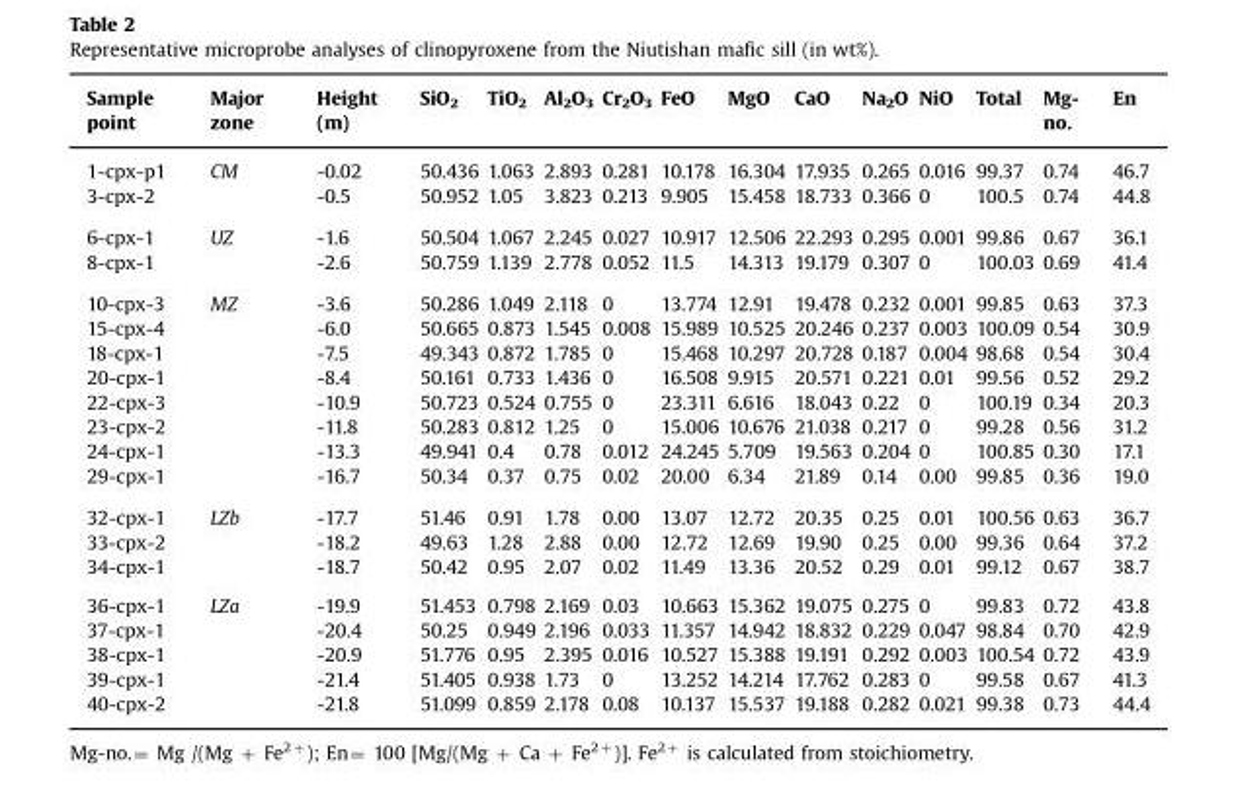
<table><thead><tr><td>Sample point</td><td>Major zone</td><td>Height (m)</td><td>SiO<sub>2</sub></td><td>TiO<sub>2</sub></td><td>Al<sub>2</sub>O<sub>3</sub></td><td>Cr<sub>2</sub>O<sub>3</sub></td><td>FeO</td><td>MgO</td><td>CaO</td><td>Na<sub>2</sub>O</td><td>NiO</td><td>Total</td><td>Mg- no.</td><td>En</td></tr></thead><tbody><tr><td>1-cpx-p1</td><td rowspan="2">CM</td><td>-0.02</td><td>50.436</td><td>1.063</td><td>2.893</td><td>0.281</td><td>10.178</td><td>16.304</td><td>17.935</td><td>0.265</td><td>0.016</td><td>99.37</td><td>0.74</td><td>46.7</td></tr><tr><td>3-cpx-2</td><td>-0.5</td><td>50.952</td><td>1.05</td><td>3.823</td><td>0.213</td><td>9.905</td><td>15.458</td><td>18.733</td><td>0.366</td><td>0</td><td>100.5</td><td>0.74</td><td>44.8</td></tr><tr><td>6-cpx-1</td><td rowspan="2">UZ</td><td>-1.6</td><td>50.504</td><td>1.067</td><td>2.245</td><td>0.027</td><td>10.917</td><td>12.506</td><td>22.293</td><td>0.295</td><td>0.001</td><td>99.86</td><td>0.67</td><td>36.1</td></tr><tr><td>8-cpx-1</td><td>-2.6</td><td>50.759</td><td>1.139</td><td>2.778</td><td>0.052</td><td>11.5</td><td>14.313</td><td>19.179</td><td>0.307</td><td>0</td><td>100.03</td><td>0.69</td><td>41.4</td></tr><tr><td>10-cpx-3</td><td rowspan="8">MZ</td><td>-3.6</td><td>50.286</td><td>1.049</td><td>2.118</td><td>0</td><td>13.774</td><td>12.91</td><td>19.478</td><td>0.232</td><td>0.001</td><td>99.85</td><td>0.63</td><td>37.3</td></tr><tr><td>15-cpx-4</td><td>-6.0</td><td>50.665</td><td>0.873</td><td>1.545</td><td>0.008</td><td>15.989</td><td>10.525</td><td>20.246</td><td>0.237</td><td>0.003</td><td>100.09</td><td>0.54</td><td>30.9</td></tr><tr><td>18-cpx-1</td><td>-7.5</td><td>49.343</td><td>0.872</td><td>1.785</td><td>0</td><td>15.468</td><td>10.297</td><td>20.728</td><td>0.187</td><td>0.004</td><td>98.68</td><td>0.54</td><td>30.4</td></tr><tr><td>20-cpx-1</td><td>-8.4</td><td>50.161</td><td>0.733</td><td>1.436</td><td>0</td><td>16.508</td><td>9.915</td><td>20.571</td><td>0.221</td><td>0.01</td><td>99.56</td><td>0.52</td><td>29.2</td></tr><tr><td>22-cpx-3</td><td>-10.9</td><td>50.723</td><td>0.524</td><td>0.755</td><td>0</td><td>23.311</td><td>6.616</td><td>18.043</td><td>0.22</td><td>0</td><td>100.19</td><td>0.34</td><td>20.3</td></tr><tr><td>23-cpx-2</td><td>-11.8</td><td>50.283</td><td>0.812</td><td>1.25</td><td>0</td><td>15.006</td><td>10.676</td><td>21.038</td><td>0.217</td><td>0</td><td>99.28</td><td>0.56</td><td>31.2</td></tr><tr><td>24-cpx-1</td><td>-13.3</td><td>49.941</td><td>0.4</td><td>0.78</td><td>0.012</td><td>24.245</td><td>5.709</td><td>19.563</td><td>0.204</td><td>0</td><td>100.85</td><td>0.30</td><td>17.1</td></tr><tr><td>29-cpx-1</td><td>-16.7</td><td>50.34</td><td>0.37</td><td>0.75</td><td>0.02</td><td>20.00</td><td>6.34</td><td>21.89</td><td>0.14</td><td>0.00</td><td>99.85</td><td>0.36</td><td>19.0</td></tr><tr><td>32-cpx-1</td><td rowspan="3">LZb</td><td>-17.7</td><td>51.46</td><td>0.91</td><td>1.78</td><td>0.00</td><td>13.07</td><td>12.72</td><td>20.35</td><td>0.25</td><td>0.01</td><td>100.56</td><td>0.63</td><td>36.7</td></tr><tr><td>33-cpx-2</td><td>-18.2</td><td>49.63</td><td>1.28</td><td>2.88</td><td>0.00</td><td>12.72</td><td>12.69</td><td>19.90</td><td>0.25</td><td>0.00</td><td>99.36</td><td>0.64</td><td>37.2</td></tr><tr><td>34-cpx-1</td><td>-18.7</td><td>50.42</td><td>0.95</td><td>2.07</td><td>0.02</td><td>11.49</td><td>13.36</td><td>20.52</td><td>0.29</td><td>0.01</td><td>99.12</td><td>0.67</td><td>38.7</td></tr><tr><td>36-cpx-1</td><td rowspan="5">LZa</td><td>-19.9</td><td>51.453</td><td>0.798</td><td>2.169</td><td>0.03</td><td>10.663</td><td>15.362</td><td>19.075</td><td>0.275</td><td>0</td><td>99.83</td><td>0.72</td><td>43.8</td></tr><tr><td>37-cpx-1</td><td>-20.4</td><td>50.25</td><td>0.949</td><td>2.196</td><td>0.033</td><td>11.357</td><td>14.942</td><td>18.832</td><td>0.229</td><td>0.047</td><td>98.84</td><td>0.70</td><td>42.9</td></tr><tr><td>38-cpx-1</td><td>-20.9</td><td>51.776</td><td>0.95</td><td>2.395</td><td>0.016</td><td>10.527</td><td>15.388</td><td>19.191</td><td>0.292</td><td>0.003</td><td>100.54</td><td>0.72</td><td>43.9</td></tr><tr><td>39-cpx-1</td><td>-21.4</td><td>51.405</td><td>0.938</td><td>1.73</td><td>0</td><td>13.252</td><td>14.214</td><td>17.762</td><td>0.283</td><td>0</td><td>99.58</td><td>0.67</td><td>41.3</td></tr><tr><td>40-cpx-2</td><td>-21.8</td><td>51.099</td><td>0.859</td><td>2.178</td><td>0.08</td><td>10.137</td><td>15.537</td><td>19.188</td><td>0.282</td><td>0.021</td><td>99.38</td><td>0.73</td><td>44.4</td></tr></tbody></table>